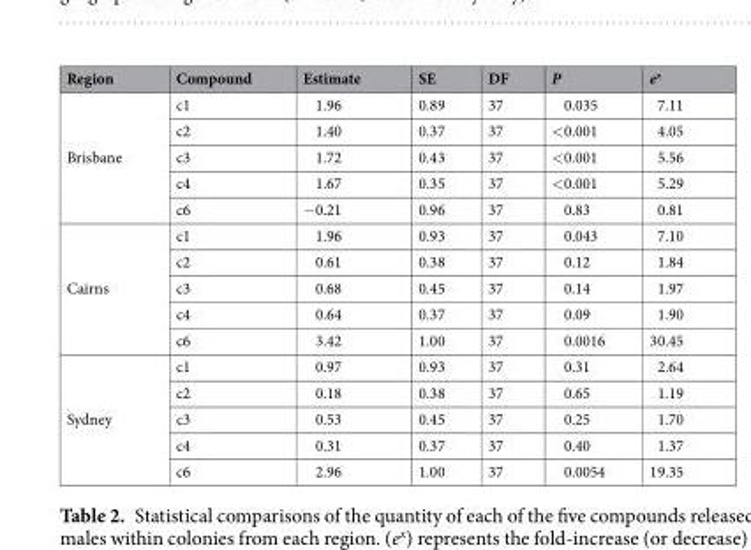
<table><thead><tr><td>Region</td><td>Compound</td><td>Estimate</td><td>SE</td><td>DF</td><td>P</td><td>e<sup>x</sup></td></tr></thead><tbody><tr><td rowspan="5">Brisbane</td><td>c1</td><td>1.96</td><td>0.89</td><td>37</td><td>0.035</td><td>7.11</td></tr><tr><td>c2</td><td>1.40</td><td>0.37</td><td>37</td><td>&lt;0.001</td><td>4.05</td></tr><tr><td>c3</td><td>1.72</td><td>0.43</td><td>37</td><td>&lt;0.001</td><td>5.56</td></tr><tr><td>c4</td><td>1.67</td><td>0.35</td><td>37</td><td>&lt;0.001</td><td>5.29</td></tr><tr><td>c6</td><td>−0.21</td><td>0.96</td><td>37</td><td>0.83</td><td>0.81</td></tr><tr><td rowspan="5">Cairns</td><td>c1</td><td>1.96</td><td>0.93</td><td>37</td><td>0.043</td><td>7.10</td></tr><tr><td>c2</td><td>0.61</td><td>0.38</td><td>37</td><td>0.12</td><td>1.84</td></tr><tr><td>c3</td><td>0.68</td><td>0.45</td><td>37</td><td>0.14</td><td>1.97</td></tr><tr><td>c4</td><td>0.64</td><td>0.37</td><td>37</td><td>0.09</td><td>1.90</td></tr><tr><td>c6</td><td>3.42</td><td>1.00</td><td>37</td><td>0.0016</td><td>30.45</td></tr><tr><td rowspan="5">Sydney</td><td>c1</td><td>0.97</td><td>0.93</td><td>37</td><td>0.31</td><td>2.64</td></tr><tr><td>c2</td><td>0.18</td><td>0.38</td><td>37</td><td>0.65</td><td>1.19</td></tr><tr><td>c3</td><td>0.53</td><td>0.45</td><td>37</td><td>0.25</td><td>1.70</td></tr><tr><td>c4</td><td>0.31</td><td>0.37</td><td>37</td><td>0.40</td><td>1.37</td></tr><tr><td>c6</td><td>2.96</td><td>1.00</td><td>37</td><td>0.0054</td><td>19.35</td></tr></tbody></table>